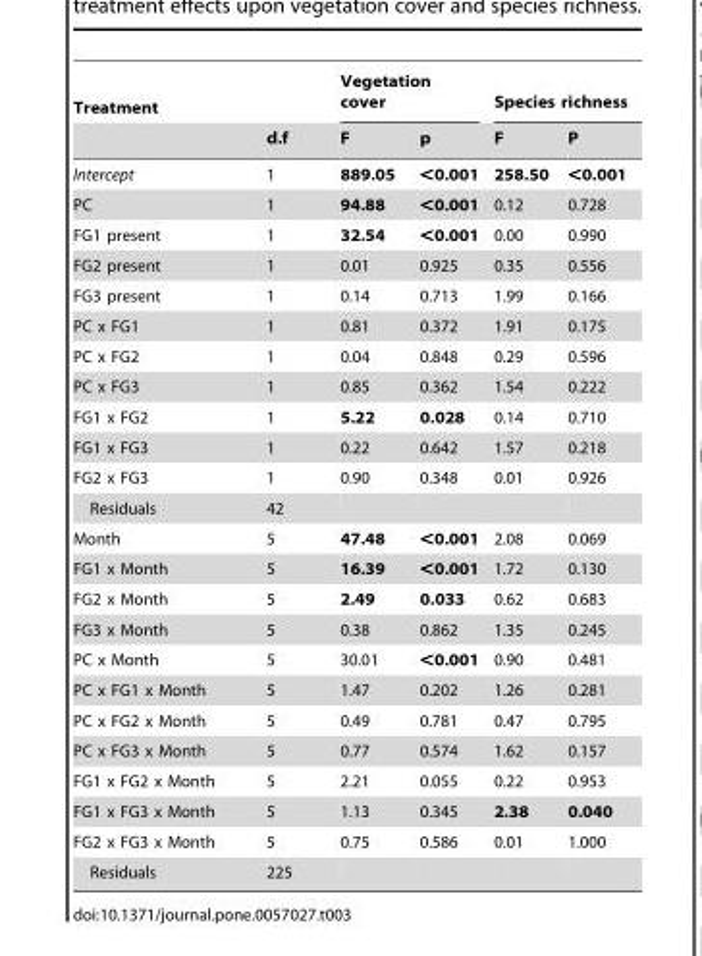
<table><thead><tr><td rowspan="2">Treatment</td><td rowspan="2">d.f</td><td colspan="2">Vegetation cover</td><td colspan="2">Species richness</td></tr><tr><td>F</td><td>p</td><td>F</td><td>P</td></tr></thead><tbody><tr><td>Intercept</td><td>1</td><td>889.05</td><td>&lt;0.001</td><td>258.50</td><td>&lt;0.001</td></tr><tr><td>PC</td><td>1</td><td>94.88</td><td>&lt;0.001</td><td>0.12</td><td>0.728</td></tr><tr><td>FG1 present</td><td>1</td><td>32.54</td><td>&lt;0.001</td><td>0.00</td><td>0.990</td></tr><tr><td>FG2 present</td><td>1</td><td>0.01</td><td>0.925</td><td>0.35</td><td>0.556</td></tr><tr><td>FG3 present</td><td>1</td><td>0.14</td><td>0.713</td><td>1.99</td><td>0.166</td></tr><tr><td>PC x FG1</td><td>1</td><td>0.81</td><td>0.372</td><td>1.91</td><td>0.175</td></tr><tr><td>PC x FG2</td><td>1</td><td>0.04</td><td>0.848</td><td>0.29</td><td>0.596</td></tr><tr><td>PC x FG3</td><td>1</td><td>0.85</td><td>0.362</td><td>1.54</td><td>0.222</td></tr><tr><td>FG1 x FG2</td><td>1</td><td>5.22</td><td>0.028</td><td>0.14</td><td>0.710</td></tr><tr><td>FG1 x FG3</td><td>1</td><td>0.22</td><td>0.642</td><td>1.57</td><td>0.218</td></tr><tr><td>FG2 x FG3</td><td>1</td><td>0.90</td><td>0.348</td><td>0.01</td><td>0.926</td></tr><tr><td>Residuals</td><td>42</td><td></td><td></td><td></td><td></td></tr><tr><td>Month</td><td>5</td><td>47.48</td><td>&lt;0.001</td><td>2.08</td><td>0.069</td></tr><tr><td>FG1 x Month</td><td>5</td><td>16.39</td><td>&lt;0.001</td><td>1.72</td><td>0.130</td></tr><tr><td>FG2 x Month</td><td>5</td><td>2.49</td><td>0.033</td><td>0.62</td><td>0.683</td></tr><tr><td>FG3 x Month</td><td>5</td><td>0.38</td><td>0.862</td><td>1.35</td><td>0.245</td></tr><tr><td>PC x Month</td><td>5</td><td>30.01</td><td>&lt;0.001</td><td>0.90</td><td>0.481</td></tr><tr><td>PC x FG1 x Month</td><td>5</td><td>1.47</td><td>0.202</td><td>1.26</td><td>0.281</td></tr><tr><td>PC x FG2 x Month</td><td>5</td><td>0.49</td><td>0.781</td><td>0.47</td><td>0.795</td></tr><tr><td>PC x FG3 x Month</td><td>5</td><td>0.77</td><td>0.574</td><td>1.62</td><td>0.157</td></tr><tr><td>FG1 x FG2 x Month</td><td>5</td><td>2.21</td><td>0.055</td><td>0.22</td><td>0.953</td></tr><tr><td>FG1 x FG3 x Month</td><td>5</td><td>1.13</td><td>0.345</td><td>2.38</td><td>0.040</td></tr><tr><td>FG2 x FG3 x Month</td><td>5</td><td>0.75</td><td>0.586</td><td>0.01</td><td>1.000</td></tr><tr><td>Residuals</td><td>225</td><td></td><td></td><td></td><td></td></tr></tbody></table>